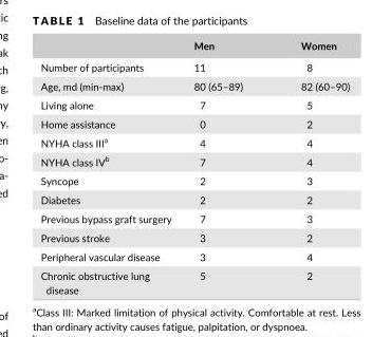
<table><thead><tr><td></td><td>Men</td><td>Women</td></tr></thead><tbody><tr><td>Number of participants</td><td>11</td><td>8</td></tr><tr><td>Age, md (min- max)</td><td>80 (65–89)</td><td>82 (60–90)</td></tr><tr><td>Living alone</td><td>7</td><td>5</td></tr><tr><td>Home assistance</td><td>0</td><td>2</td></tr><tr><td>NYHA class III<sup>a</sup></td><td>4</td><td>4</td></tr><tr><td>NYHA class IVb</td><td>7</td><td>4</td></tr><tr><td>Syncope</td><td>2</td><td>3</td></tr><tr><td>Diabetes</td><td>2</td><td>2</td></tr><tr><td>Previous bypass graft surgery</td><td>7</td><td>3</td></tr><tr><td>Previous stroke</td><td>3</td><td>2</td></tr><tr><td>Peripheral vascular disease</td><td>3</td><td>4</td></tr><tr><td>Chronic obstructive lung disease</td><td>5</td><td>2</td></tr></tbody></table>